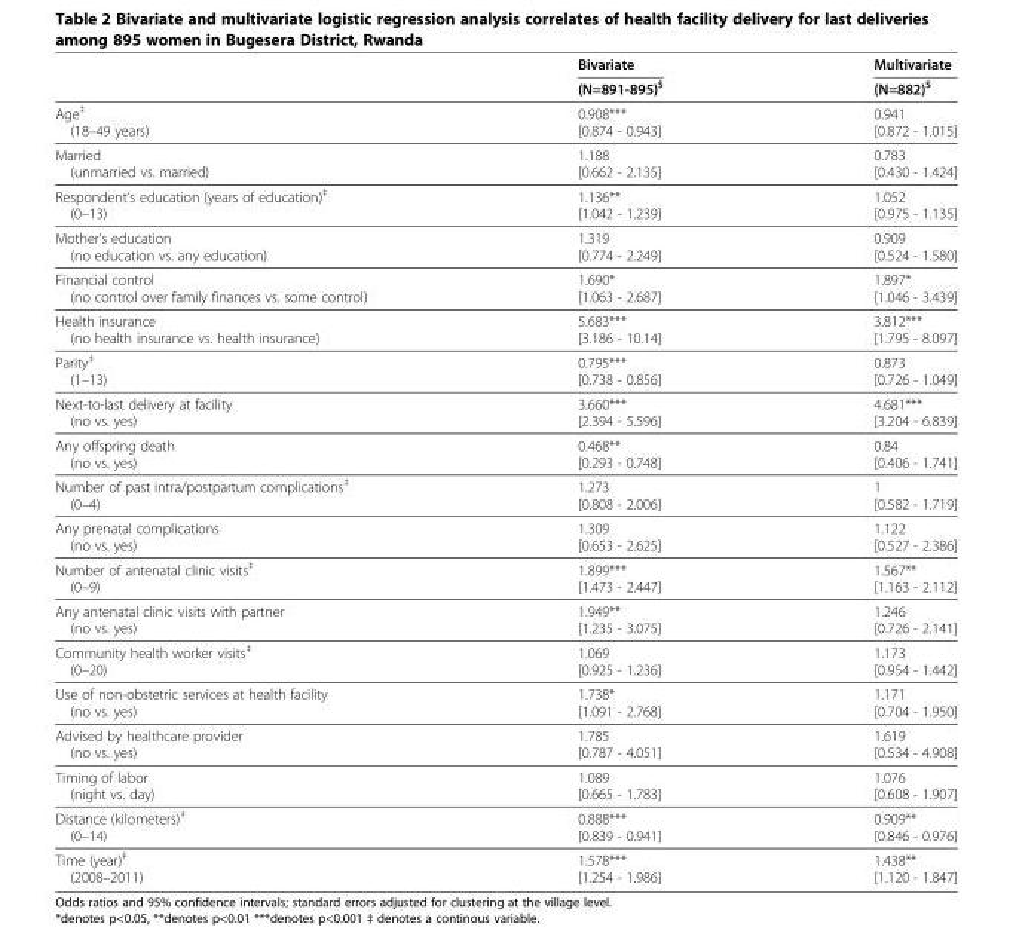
<table><thead><tr><td rowspan="2"></td><td rowspan="2">Bivariate (N=891-895)<sup>$</sup></td><td rowspan="2">Multivariate (N=882)<sup>$</sup></td></tr><tr></tr></thead><tbody><tr><td>Age<sup>‡</sup></td><td>0.908***</td><td>0.941</td></tr><tr><td>(18–49 years)</td><td>[0.874 - 0.943]</td><td>[0.872 - 1.015]</td></tr><tr><td>Married</td><td>1.188</td><td>0.783</td></tr><tr><td>(unmarried vs. married)</td><td>[0.662 - 2.135]</td><td>[0.430 - 1.424]</td></tr><tr><td>Respondent’s education (years of education)<sup>‡</sup></td><td>1.136**</td><td>1.052</td></tr><tr><td>(0–13)</td><td>[1.042 - 1.239]</td><td>[0.975 - 1.135]</td></tr><tr><td>Mother&#x27;s education</td><td>1.319</td><td>0.909</td></tr><tr><td>(no education vs. any education)</td><td>[0.774 - 2.249]</td><td>[0.524 - 1.580]</td></tr><tr><td>Financial control</td><td>1.690*</td><td>1.897*</td></tr><tr><td>(no control over family finances vs. some control)</td><td>[1.063 - 2.687]</td><td>[1.046 - 3.439]</td></tr><tr><td>Health insurance</td><td>5.683***</td><td>3.812***</td></tr><tr><td>(no health insurance vs. health insurance)</td><td>[3.186 - 10.14]</td><td>[1.795 - 8.097]</td></tr><tr><td>Parity<sup>‡</sup></td><td>0.795***</td><td>0.873</td></tr><tr><td>(1–13)</td><td>[0.738 - 0.856]</td><td>[0.726 - 1.049]</td></tr><tr><td>Next-to-last delivery at facility</td><td>3.660***</td><td>4.681***</td></tr><tr><td>(no vs. yes)</td><td>[2.394 - 5.596]</td><td>[3.204 - 6.839]</td></tr><tr><td>Any offspring death</td><td>0.468**</td><td>0.84</td></tr><tr><td>(no vs. yes)</td><td>[0.293 - 0.748]</td><td>[0.406 - 1.741]</td></tr><tr><td>Number of past intra/postpartum complications<sup>‡</sup></td><td>1.273</td><td>1</td></tr><tr><td>(0–4)</td><td>[0.808 - 2.006]</td><td>[0.582 - 1.719]</td></tr><tr><td>Any prenatal complications</td><td>1.309</td><td>1.122</td></tr><tr><td>(no vs. yes)</td><td>[0.653 - 2.625]</td><td>[0.527 - 2.386]</td></tr><tr><td>Number of antenatal clinic visits<sup>‡</sup></td><td>1.899***</td><td>1.567**</td></tr><tr><td>(0–9)</td><td>[1.473 - 2.447]</td><td>[1.163 - 2.112]</td></tr><tr><td>Any antenatal clinic visits with partner</td><td>1.949**</td><td>1.246</td></tr><tr><td>(no vs. yes)</td><td>[1.235 - 3.075]</td><td>[0.726 - 2.141]</td></tr><tr><td>Community health worker visits<sup>‡</sup></td><td>1.069</td><td>1.173</td></tr><tr><td>(0–20)</td><td>[0.925 - 1.236]</td><td>[0.954 - 1.442]</td></tr><tr><td>Use of non-obstetric services at health facility</td><td>1.738*</td><td>1.171</td></tr><tr><td>(no vs. yes)</td><td>[1.091 - 2.768]</td><td>[0.704 - 1.950]</td></tr><tr><td>Advised by healthcare provider</td><td>1.785</td><td>1.619</td></tr><tr><td>(no vs. yes)</td><td>[0.787 - 4.051]</td><td>[0.534 - 4.908]</td></tr><tr><td>Timing of labor</td><td>1.089</td><td>1.076</td></tr><tr><td>(night vs. day)</td><td>[0.665 - 1.783]</td><td>[0.608 - 1.907]</td></tr><tr><td>Distance (kilometers)<sup>‡</sup></td><td>0.888***</td><td>0.909**</td></tr><tr><td>(0–14)</td><td>[0.839 - 0.941]</td><td>[0.846 - 0.976]</td></tr><tr><td>Time (year)<sup>‡</sup></td><td>1.578***</td><td>1.438**</td></tr><tr><td>(2008–2011)</td><td>[1.254 - 1.986]</td><td>[1.120 - 1.847]</td></tr></tbody></table>